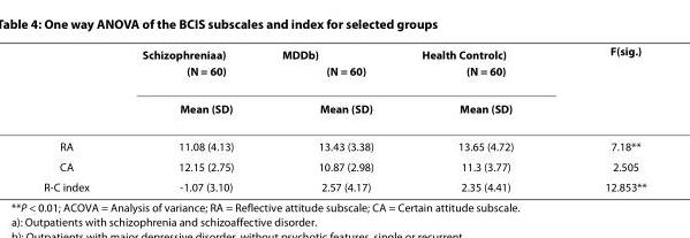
<table><thead><tr><td rowspan="2"></td><td rowspan="2">Schizophrenia<sup>a)</sup> (N = 60) Mean (SD)</td><td rowspan="2">MDD<sup>b)</sup> (N = 60) Mean (SD)</td><td rowspan="2">Health Control<sup>c)</sup> (N = 60) Mean (SD)</td><td rowspan="2">F(sig.)</td></tr><tr></tr></thead><tbody><tr><td>RA</td><td>11.08 (4.13)</td><td>13.43 (3.38)</td><td>13.65 (4.72)</td><td>7.18**</td></tr><tr><td>CA</td><td>12.15 (2.75)</td><td>10.87 (2.98)</td><td>11.3 (3.77)</td><td>2.505</td></tr><tr><td>R-C index</td><td>-1.07 (3.10)</td><td>2.57 (4.17)</td><td>2.35 (4.41)</td><td>12.853**</td></tr></tbody></table>